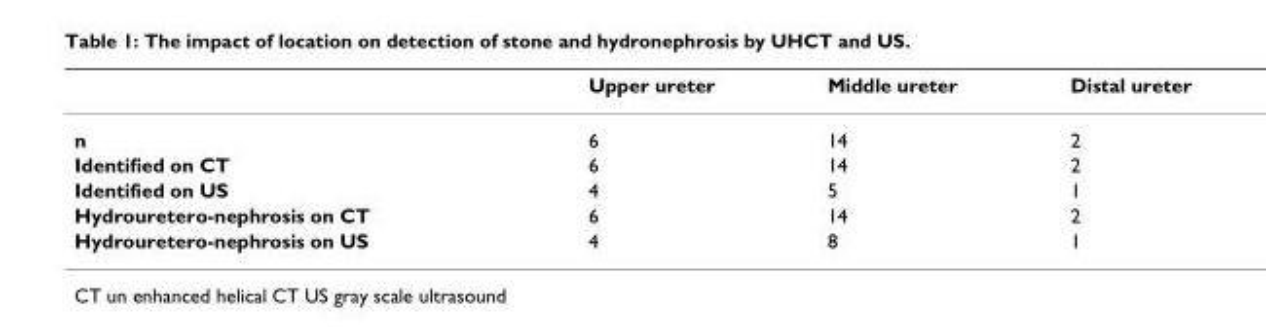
<table><thead><tr><td></td><td>Upper ureter</td><td>Middle ureter</td><td>Distal ureter</td></tr></thead><tbody><tr><td>n</td><td>6</td><td>14</td><td>2</td></tr><tr><td>Identified on CT</td><td>6</td><td>14</td><td>2</td></tr><tr><td>Identified on US</td><td>4</td><td>5</td><td>1</td></tr><tr><td>Hydrouretero-nephrosis on CT</td><td>6</td><td>14</td><td>2</td></tr><tr><td>Hydrouretero-nephrosis on US</td><td>4</td><td>8</td><td>1</td></tr></tbody></table>